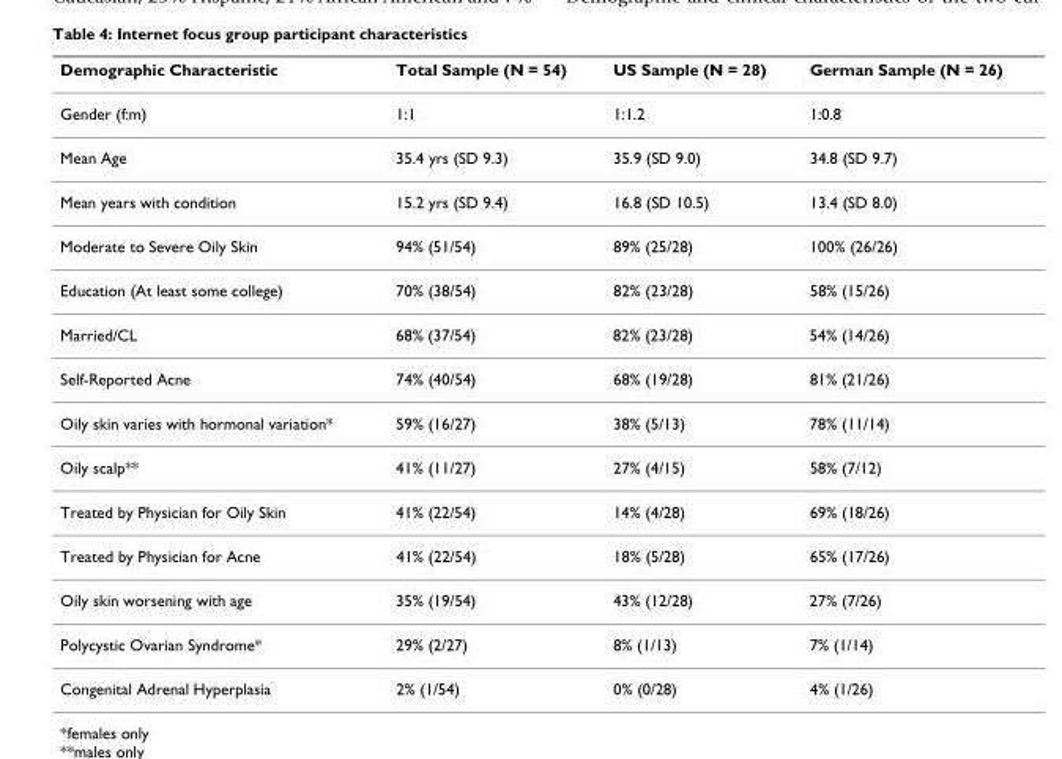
<table><thead><tr><td>Demographic Characteristic</td><td>Total Sample (N = 54)</td><td>US Sample (N = 28)</td><td>German Sample (N = 26)</td></tr></thead><tbody><tr><td>Gender (f:m)</td><td>1:1</td><td>1:1.2</td><td>1:0.8</td></tr><tr><td>Mean Age</td><td>35.4 yrs (SD 9.3)</td><td>35.9 (SD 9.0)</td><td>34.8 (SD 9.7)</td></tr><tr><td>Mean years with condition</td><td>15.2 yrs (SD 9.4)</td><td>16.8 (SD 10.5)</td><td>13.4 (SD 8.0)</td></tr><tr><td>Moderate to Severe Oily Skin</td><td>94% (51/54)</td><td>89% (25/28)</td><td>100% (26/26)</td></tr><tr><td>Education (At least some college)</td><td>70% (38/54)</td><td>82% (23/28)</td><td>58% (15/26)</td></tr><tr><td>Married/CL</td><td>68% (37/54)</td><td>82% (23/28)</td><td>54% (14/26)</td></tr><tr><td>Self-Reported Acne</td><td>74% (40/54)</td><td>68% (19/28)</td><td>81% (21/26)</td></tr><tr><td>Oily skin varies with hormonal variation*</td><td>59% (16/27)</td><td>38% (5/13)</td><td>78% (11/14)</td></tr><tr><td>Oily scalp**</td><td>41% (11/27)</td><td>27% (4/15)</td><td>58% (7/12)</td></tr><tr><td>Treated by Physician for Oily Skin</td><td>41% (22/54)</td><td>14% (4/28)</td><td>69% (18/26)</td></tr><tr><td>Treated by Physician for Acne</td><td>41% (22/54)</td><td>18% (5/28)</td><td>65% (17/26)</td></tr><tr><td>Oily skin worsening with age</td><td>35% (19/54)</td><td>43% (12/28)</td><td>27% (7/26)</td></tr><tr><td>Polycystic Ovarian Syndrome*</td><td>29% (2/27)</td><td>8% (1/13)</td><td>7% (1/14)</td></tr><tr><td>Congenital Adrenal Hyperplasia</td><td>2% (1/54)</td><td>0% (0/28)</td><td>4% (1/26)</td></tr></tbody></table>